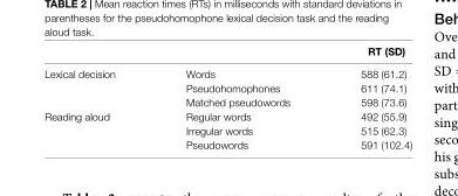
<table><thead><tr><td></td><td></td><td>RT (SD)</td></tr></thead><tbody><tr><td rowspan="3">Lexical decision</td><td>Words</td><td>588 (61.2)</td></tr><tr><td>Pseudohomophones</td><td>611 (74.1)</td></tr><tr><td>Matched pseudowords</td><td>598 (73.6)</td></tr><tr><td rowspan="3">Reading aloud</td><td>Regular words</td><td>492 (55.9)</td></tr><tr><td>Irregular words</td><td>515 (62.3)</td></tr><tr><td>Pseudowords</td><td>591 (102.4)</td></tr></tbody></table>